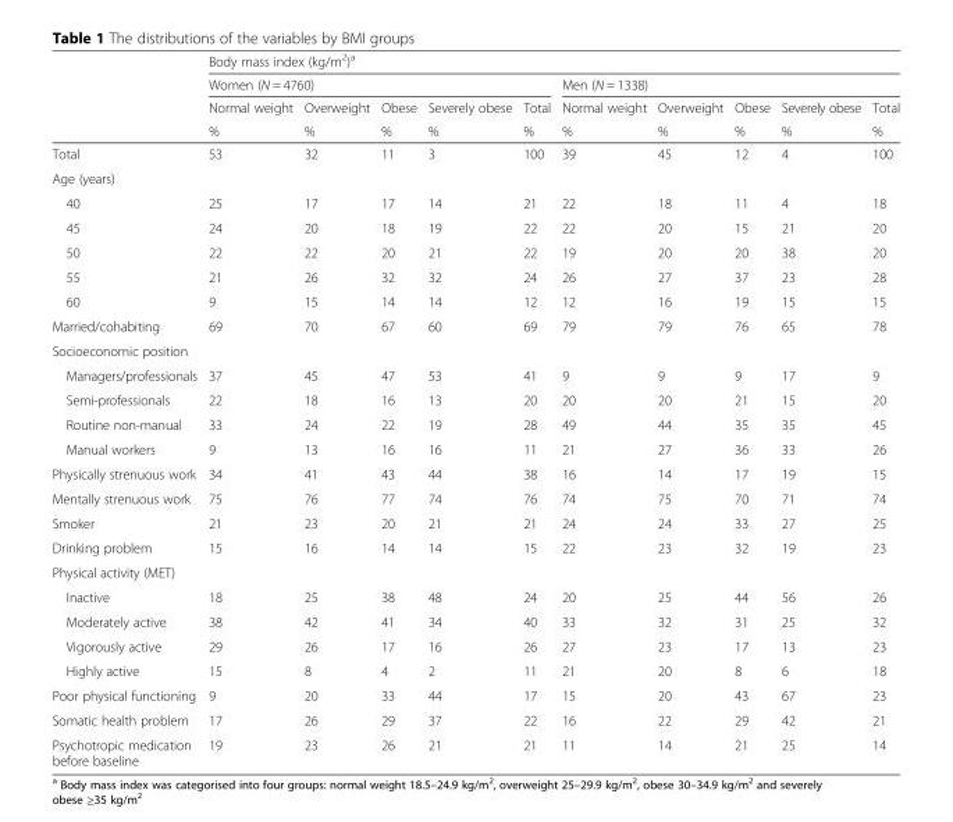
<table><thead><tr><td rowspan="4"></td><td colspan="10">Body mass index (kg/m<sup>2</sup>)<sup>a</sup></td></tr><tr><td colspan="5">Women (N = 4760)</td><td colspan="5">Men (N = 1338)</td></tr><tr><td rowspan="2">Normal weight %</td><td rowspan="2">Overweight %</td><td rowspan="2">Obese %</td><td rowspan="2">Severely obese %</td><td rowspan="2">Total %</td><td rowspan="2">Normal weight %</td><td rowspan="2">Overweight %</td><td rowspan="2">Obese %</td><td rowspan="2">Severely obese %</td><td rowspan="2">Total %</td></tr><tr></tr></thead><tbody><tr><td>Total</td><td>53</td><td>32</td><td>11</td><td>3</td><td>100</td><td>39</td><td>45</td><td>12</td><td>4</td><td>100</td></tr><tr><td colspan="11">Age (years)</td></tr><tr><td>40</td><td>25</td><td>17</td><td>17</td><td>14</td><td>21</td><td>22</td><td>18</td><td>11</td><td>4</td><td>18</td></tr><tr><td>45</td><td>24</td><td>20</td><td>18</td><td>19</td><td>22</td><td>22</td><td>20</td><td>15</td><td>21</td><td>20</td></tr><tr><td>50</td><td>22</td><td>22</td><td>20</td><td>21</td><td>22</td><td>19</td><td>20</td><td>20</td><td>38</td><td>20</td></tr><tr><td>55</td><td>21</td><td>26</td><td>32</td><td>32</td><td>24</td><td>26</td><td>27</td><td>37</td><td>23</td><td>28</td></tr><tr><td>60</td><td>9</td><td>15</td><td>14</td><td>14</td><td>12</td><td>12</td><td>16</td><td>19</td><td>15</td><td>15</td></tr><tr><td>Married/cohabiting</td><td>69</td><td>70</td><td>67</td><td>60</td><td>69</td><td>79</td><td>79</td><td>76</td><td>65</td><td>78</td></tr><tr><td colspan="11">Socioeconomic position</td></tr><tr><td>Managers/professionals</td><td>37</td><td>45</td><td>47</td><td>53</td><td>41</td><td>9</td><td>9</td><td>9</td><td>17</td><td>9</td></tr><tr><td>Semi-professionals</td><td>22</td><td>18</td><td>16</td><td>13</td><td>20</td><td>20</td><td>20</td><td>21</td><td>15</td><td>20</td></tr><tr><td>Routine non-manual</td><td>33</td><td>24</td><td>22</td><td>19</td><td>28</td><td>49</td><td>44</td><td>35</td><td>35</td><td>45</td></tr><tr><td>Manual workers</td><td>9</td><td>13</td><td>16</td><td>16</td><td>11</td><td>21</td><td>27</td><td>36</td><td>33</td><td>26</td></tr><tr><td>Physically strenuous work</td><td>34</td><td>41</td><td>43</td><td>44</td><td>38</td><td>16</td><td>14</td><td>17</td><td>19</td><td>15</td></tr><tr><td>Mentally strenuous work</td><td>75</td><td>76</td><td>77</td><td>74</td><td>76</td><td>74</td><td>75</td><td>70</td><td>71</td><td>74</td></tr><tr><td>Smoker</td><td>21</td><td>23</td><td>20</td><td>21</td><td>21</td><td>24</td><td>24</td><td>33</td><td>27</td><td>25</td></tr><tr><td>Drinking problem</td><td>15</td><td>16</td><td>14</td><td>14</td><td>15</td><td>22</td><td>23</td><td>32</td><td>19</td><td>23</td></tr><tr><td colspan="11">Physical activity (MET)</td></tr><tr><td>Inactive</td><td>18</td><td>25</td><td>38</td><td>48</td><td>24</td><td>20</td><td>25</td><td>44</td><td>56</td><td>26</td></tr><tr><td>Moderately active</td><td>38</td><td>42</td><td>41</td><td>34</td><td>40</td><td>33</td><td>32</td><td>31</td><td>25</td><td>32</td></tr><tr><td>Vigorously active</td><td>29</td><td>26</td><td>17</td><td>16</td><td>26</td><td>27</td><td>23</td><td>17</td><td>13</td><td>23</td></tr><tr><td>Highly active</td><td>15</td><td>8</td><td>4</td><td>2</td><td>11</td><td>21</td><td>20</td><td>8</td><td>6</td><td>18</td></tr><tr><td>Poor physical functioning</td><td>9</td><td>20</td><td>33</td><td>44</td><td>17</td><td>15</td><td>20</td><td>43</td><td>67</td><td>23</td></tr><tr><td>Somatic health problem</td><td>17</td><td>26</td><td>29</td><td>37</td><td>22</td><td>16</td><td>22</td><td>29</td><td>42</td><td>21</td></tr><tr><td>Psychotropic medication before baseline</td><td>19</td><td>23</td><td>26</td><td>21</td><td>21</td><td>11</td><td>14</td><td>21</td><td>25</td><td>14</td></tr></tbody></table>